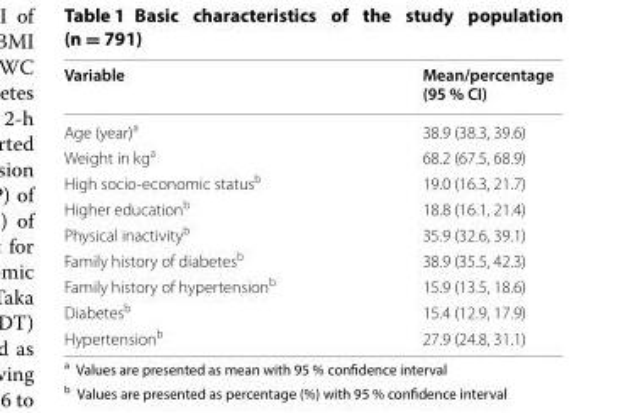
<table><thead><tr><td>Variable</td><td>Mean/percentage (95 % CI)</td></tr></thead><tbody><tr><td>Age (year)<sup>a</sup></td><td>38.9 (38.3, 39.6)</td></tr><tr><td>Weight in kg<sup>a</sup></td><td>68.2 (67.5, 68.9)</td></tr><tr><td>High socio-economic status<sup>b</sup></td><td>19.0 (16.3, 21.7)</td></tr><tr><td>Higher education<sup>b</sup></td><td>18.8 (16.1, 21.4)</td></tr><tr><td>Physical inactivity<sup>b</sup></td><td>35.9 (32.6, 39.1)</td></tr><tr><td>Family history of diabetes<sup>b</sup></td><td>38.9 (35.5, 42.3)</td></tr><tr><td>Family history of hypertension<sup>b</sup></td><td>15.9 (13.5, 18.6)</td></tr><tr><td>Diabetes<sup>b</sup></td><td>15.4 (12.9, 17.9)</td></tr><tr><td>Hypertension<sup>b</sup></td><td>27.9 (24.8, 31.1)</td></tr></tbody></table>